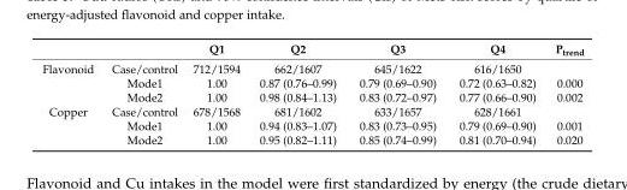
<table><thead><tr><td></td><td></td><td>Q1</td><td>Q2</td><td>Q3</td><td>Q4</td><td>P<sub>trend</sub></td></tr></thead><tbody><tr><td rowspan="3">Flavonoid</td><td>Case/control</td><td>712/1594</td><td>662/1607</td><td>645/1622</td><td>616/1650</td><td></td></tr><tr><td>Mode1</td><td>1.00</td><td>0.87 (0.76–0.99)</td><td>0.79 (0.69–0.90)</td><td>0.72 (0.63–0.82)</td><td>0.000</td></tr><tr><td>Mode2</td><td>1.00</td><td>0.98 (0.84–1.13)</td><td>0.83 (0.72–0.97)</td><td>0.77 (0.66–0.90)</td><td>0.002</td></tr><tr><td rowspan="3">Copper</td><td>Case/control</td><td>678/1568</td><td>681/1602</td><td>633/1657</td><td>628/1661</td><td></td></tr><tr><td>Mode1</td><td>1.00</td><td>0.94 (0.83–1.07)</td><td>0.83 (0.73–0.95)</td><td>0.79 (0.69–0.90)</td><td>0.001</td></tr><tr><td>Mode2</td><td>1.00</td><td>0.95 (0.82–1.11)</td><td>0.85 (0.74–0.99)</td><td>0.81 (0.70–0.94)</td><td>0.020</td></tr></tbody></table>